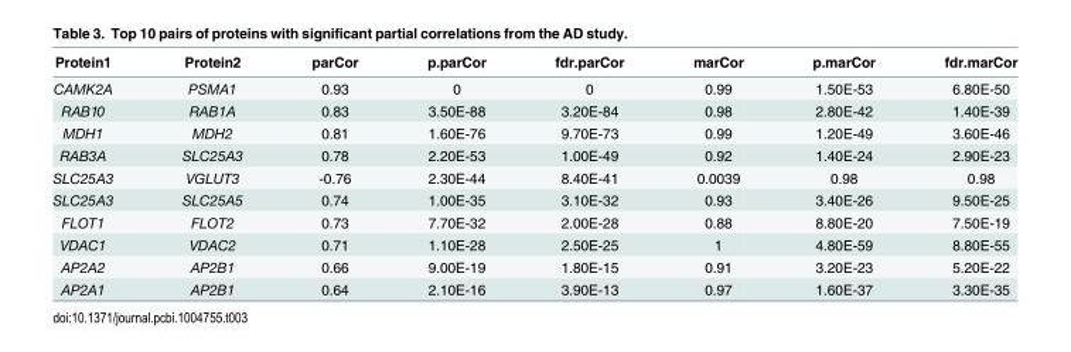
<table><thead><tr><td>Protein1</td><td>Protein2</td><td>parCor</td><td>p.parCor</td><td>fdr.parCor</td><td>marCor</td><td>p.marCor</td><td>fdr.marCor</td></tr></thead><tbody><tr><td>CAMK2A</td><td>PSMA1</td><td>0.93</td><td>0</td><td>0</td><td>0.99</td><td>1.50E-53</td><td>6.80E-50</td></tr><tr><td>RAB10</td><td>RAB1A</td><td>0.83</td><td>3.50E-88</td><td>3.20E-84</td><td>0.98</td><td>2.80E-42</td><td>1.40E-39</td></tr><tr><td>MDH1</td><td>MDH2</td><td>0.81</td><td>1.60E-76</td><td>9.70E-73</td><td>0.99</td><td>1.20E-49</td><td>3.60E-46</td></tr><tr><td>RAB3A</td><td>SLC25A3</td><td>0.78</td><td>2.20E-53</td><td>1.00E-49</td><td>0.92</td><td>1.40E-24</td><td>2.90E-23</td></tr><tr><td>SLC25A3</td><td>VGLUT3</td><td>-0.76</td><td>2.30E-44</td><td>8.40E-41</td><td>0.0039</td><td>0.98</td><td>0.98</td></tr><tr><td>SLC25A3</td><td>SLC25A5</td><td>0.74</td><td>1.00E-35</td><td>3.10E-32</td><td>0.93</td><td>3.40E-26</td><td>9.50E-25</td></tr><tr><td>FLOT1</td><td>FLOT2</td><td>0.73</td><td>7.70E-32</td><td>2.00E-28</td><td>0.88</td><td>8.80E-20</td><td>7.50E-19</td></tr><tr><td>VDAC1</td><td>VDAC2</td><td>0.71</td><td>1.10E-28</td><td>2.50E-25</td><td>1</td><td>4.80E-59</td><td>8.80E-55</td></tr><tr><td>AP2A2</td><td>AP2B1</td><td>0.66</td><td>9.00E-19</td><td>1.80E-15</td><td>0.91</td><td>3.20E-23</td><td>5.20E-22</td></tr><tr><td>AP2A1</td><td>AP2B1</td><td>0.64</td><td>2.10E-16</td><td>3.90E-13</td><td>0.97</td><td>1.60E-37</td><td>3.30E-35</td></tr></tbody></table>